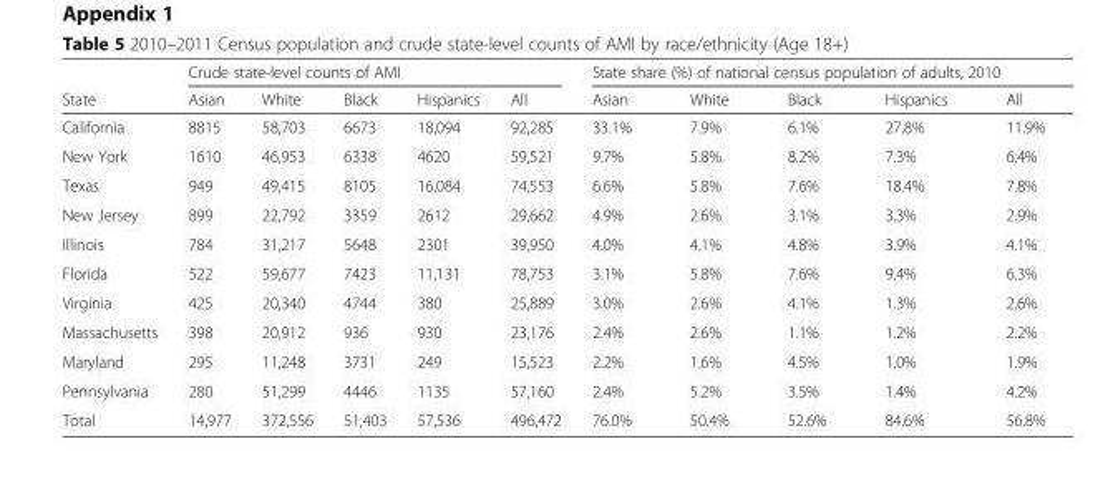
<table><thead><tr><td rowspan="2">State</td><td colspan="5">Crude state-level counts of AMI</td><td colspan="5">State share (%) of national census population of adults, 2010</td></tr><tr><td>Asian</td><td>White</td><td>Black</td><td>Hispanics</td><td>All</td><td>Asian</td><td>White</td><td>Black</td><td>Hispanics</td><td>All</td></tr></thead><tbody><tr><td>California</td><td>8815</td><td>58,703</td><td>6673</td><td>18,094</td><td>92,285</td><td>33.1%</td><td>7.9%</td><td>6.1%</td><td>27.8%</td><td>11.9%</td></tr><tr><td>New York</td><td>1610</td><td>46,953</td><td>6338</td><td>4620</td><td>59,521</td><td>9.7%</td><td>5.8%</td><td>8.2%</td><td>7.3%</td><td>6.4%</td></tr><tr><td>Texas</td><td>949</td><td>49,415</td><td>8105</td><td>16,084</td><td>74,553</td><td>6.6%</td><td>5.8%</td><td>7.6%</td><td>18.4%</td><td>7.8%</td></tr><tr><td>New Jersey</td><td>899</td><td>22,792</td><td>3359</td><td>2612</td><td>29,662</td><td>4.9%</td><td>2.6%</td><td>3.1%</td><td>3.3%</td><td>2.9%</td></tr><tr><td>Illinois</td><td>784</td><td>31,217</td><td>5648</td><td>2301</td><td>39,950</td><td>4.0%</td><td>4.1%</td><td>4.8%</td><td>3.9%</td><td>4.1%</td></tr><tr><td>Florida</td><td>522</td><td>59,677</td><td>7423</td><td>11,131</td><td>78,753</td><td>3.1%</td><td>5.8%</td><td>7.6%</td><td>9.4%</td><td>6.3%</td></tr><tr><td>Virginia</td><td>425</td><td>20,340</td><td>4744</td><td>380</td><td>25,889</td><td>3.0%</td><td>2.6%</td><td>4.1%</td><td>1.3%</td><td>2.6%</td></tr><tr><td>Massachusetts</td><td>398</td><td>20,912</td><td>936</td><td>930</td><td>23,176</td><td>2.4%</td><td>2.6%</td><td>1.1%</td><td>1.2%</td><td>2.2%</td></tr><tr><td>Maryland</td><td>295</td><td>11,248</td><td>3731</td><td>249</td><td>15,523</td><td>2.2%</td><td>1.6%</td><td>4.5%</td><td>1.0%</td><td>1.9%</td></tr><tr><td>Pennsylvania</td><td>280</td><td>51,299</td><td>4446</td><td>1135</td><td>57,160</td><td>2.4%</td><td>5.2%</td><td>3.5%</td><td>1.4%</td><td>4.2%</td></tr><tr><td>Total</td><td>14,977</td><td>372,556</td><td>51,403</td><td>57,536</td><td>496,472</td><td>76.0%</td><td>50.4%</td><td>52.6%</td><td>84.6%</td><td>56.8%</td></tr></tbody></table>